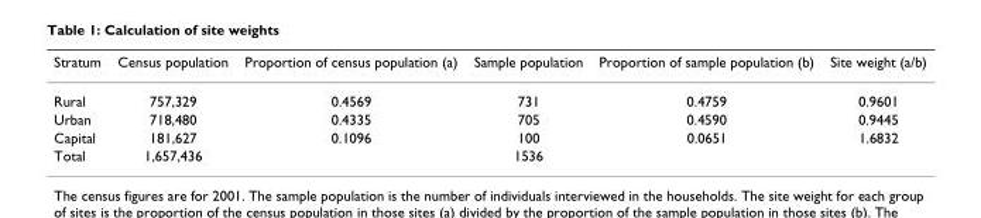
<table><thead><tr><td>Stratum</td><td>Census population</td><td>Proportion of census population (a)</td><td>Sample population</td><td>Proportion of sample population (b)</td><td>Site weight (a/b)</td></tr></thead><tbody><tr><td>Rural</td><td>757,329</td><td>0.4569</td><td>731</td><td>0.4759</td><td>0.9601</td></tr><tr><td>Urban</td><td>718,480</td><td>0.4335</td><td>705</td><td>0.4590</td><td>0.9445</td></tr><tr><td>Capital</td><td>181,627</td><td>0.1096</td><td>100</td><td>0.0651</td><td>1.6832</td></tr><tr><td>Total</td><td>1,657,436</td><td></td><td>1536</td><td></td><td></td></tr></tbody></table>